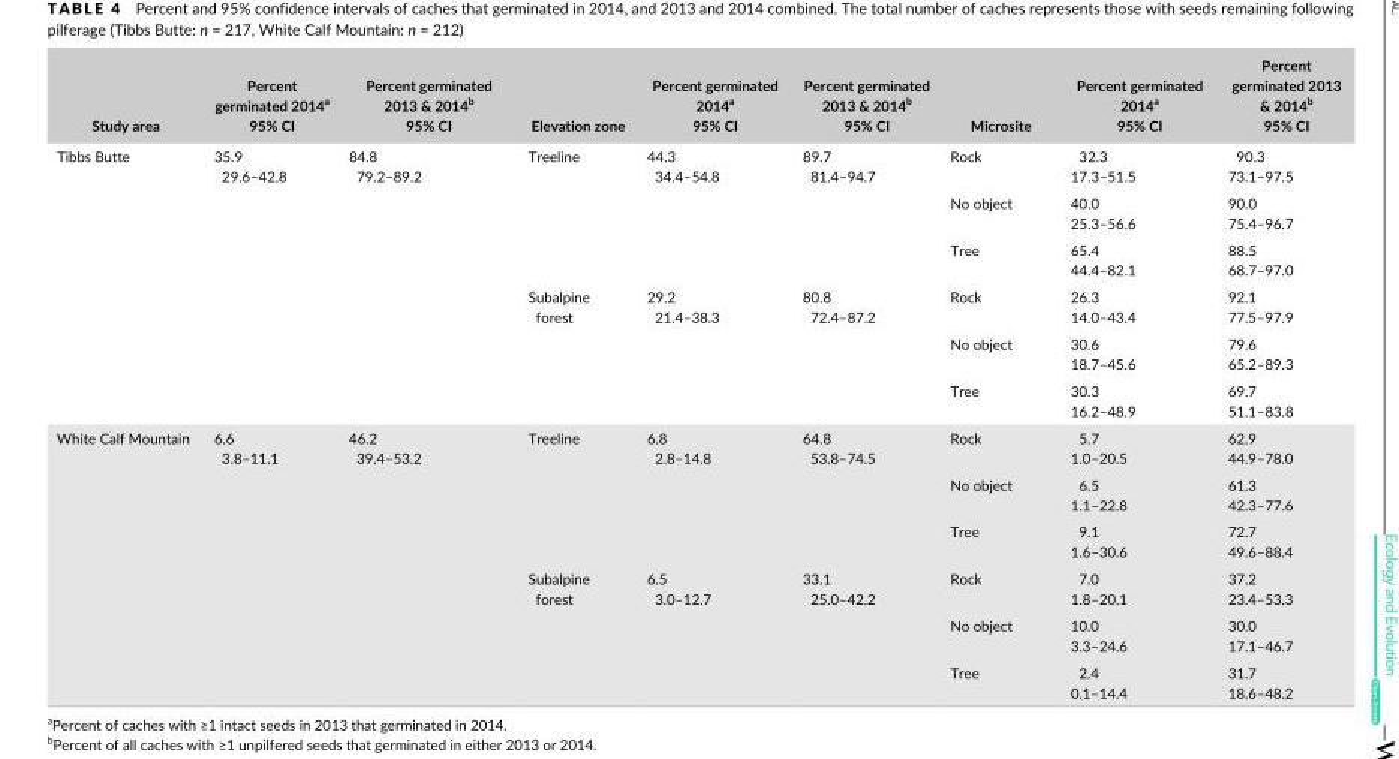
<table><thead><tr><td>Study area</td><td>Percent germinated 2014<sup>a</sup> 95% CI</td><td>Percent germinated 2013 &amp; 2014<sup>b</sup> 95% CI</td><td>Elevation zone</td><td>Percent germinated 2014<sup>a</sup> 95% CI</td><td>Percent germinated 2013 &amp; 2014<sup>b</sup> 95% CI</td><td>Microsite</td><td>Percent germinated 2014<sup>a</sup> 95% CI</td><td>Percent germinated 2013 &amp; 2014<sup>b</sup> 95% CI</td></tr></thead><tbody><tr><td rowspan="6">Tibbs Butte</td><td rowspan="6">35.9 29.6–42.8</td><td rowspan="6">84.8 79.2–89.2</td><td rowspan="3">Treeline</td><td rowspan="3">44.3 34.4–54.8</td><td rowspan="3">89.7 81.4–94.7</td><td>Rock</td><td>32.3 17.3–51.5</td><td>90.3 73.1–97.5</td></tr><tr><td>No object</td><td>40.0 25.3–56.6</td><td>90.0 75.4–96.7</td></tr><tr><td>Tree</td><td>65.4 44.4–82.1</td><td>88.5 68.7–97.0</td></tr><tr><td rowspan="3">Subalpine forest</td><td rowspan="3">29.2 21.4–38.3</td><td rowspan="3">80.8 72.4–87.2</td><td>Rock</td><td>26.3 14.0–43.4</td><td>92.1 77.5–97.9</td></tr><tr><td>No object</td><td>30.6 18.7–45.6</td><td>79.6 65.2–89.3</td></tr><tr><td>Tree</td><td>30.3 16.2–48.9</td><td>69.7 51.1–83.8</td></tr><tr><td rowspan="6">White Calf Mountain</td><td rowspan="6">6.6 3.8–11.1</td><td rowspan="6">46.2 39.4–53.2</td><td rowspan="3">Treeline</td><td rowspan="3">6.8 2.8–14.8</td><td rowspan="3">64.8 53.8–74.5</td><td>Rock</td><td>5.7 1.0–20.5</td><td>62.9 44.9–78.0</td></tr><tr><td>No object</td><td>6.5 1.1–22.8</td><td>61.3 42.3–77.6</td></tr><tr><td>Tree</td><td>9.1 1.6–30.6</td><td>72.7 49.6–88.4</td></tr><tr><td rowspan="3">Subalpine forest</td><td rowspan="3">6.5 3.0–12.7</td><td rowspan="3">33.1 25.0–42.2</td><td>Rock</td><td>7.0 1.8–20.1</td><td>37.2 23.4–53.3</td></tr><tr><td>No object</td><td>10.0 3.3–24.6</td><td>30.0 17.1–46.7</td></tr><tr><td>Tree</td><td>2.4 0.1–14.4</td><td>31.7 18.6–48.2</td></tr></tbody></table>